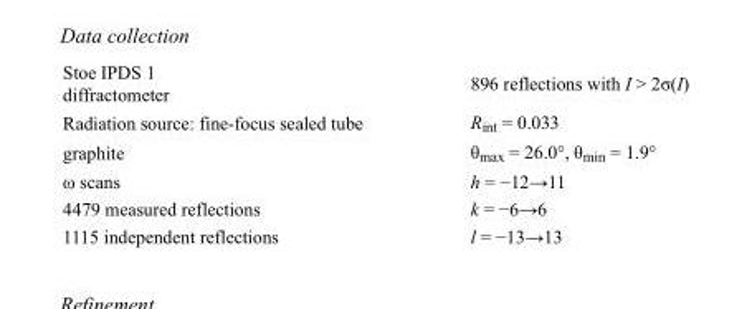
<table><tbody><tr><td>Stoe IPDS 1 diffractometer</td><td>896 reflections with I &gt; 2σ(I)</td></tr><tr><td>Radiation source: fine-focus sealed tube</td><td>R<sub>int</sub> = 0.033</td></tr><tr><td>graphite</td><td>θ<sub>max</sub> = 26.0°, θ<sub>min</sub> = 1.9°</td></tr><tr><td>ω scans</td><td>h = −12→11</td></tr><tr><td>4479 measured reflections</td><td>k = −6→6</td></tr><tr><td>1115 independent reflections</td><td>l = −13→13</td></tr></tbody></table>